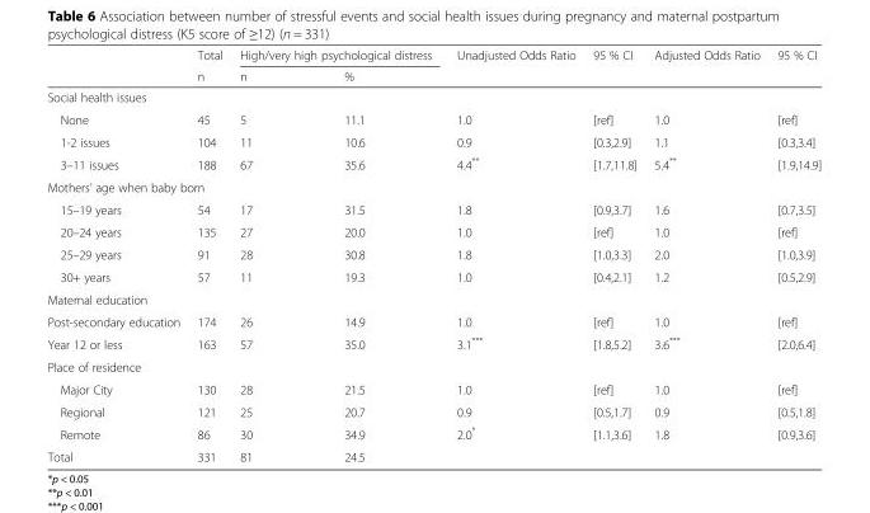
<table><thead><tr><td rowspan="2"></td><td rowspan="2">Total n</td><td colspan="2">High/very high psychological distress</td><td rowspan="2">Unadjusted Odds Ratio</td><td rowspan="2">95 % CI</td><td rowspan="2">Adjusted Odds Ratio</td><td rowspan="2">95 % CI</td></tr><tr><td>n</td><td>%</td></tr></thead><tbody><tr><td colspan="8">Social health issues</td></tr><tr><td>None</td><td>45</td><td>5</td><td>11.1</td><td>1.0</td><td>[ref]</td><td>1.0</td><td>[ref]</td></tr><tr><td>1-2 issues</td><td>104</td><td>11</td><td>10.6</td><td>0.9</td><td>[0.3,2.9]</td><td>1.1</td><td>[0.3,3.4]</td></tr><tr><td>3–11 issues</td><td>188</td><td>67</td><td>35.6</td><td>4.4**</td><td>[1.7,11.8]</td><td>5.4**</td><td>[1.9,14.9]</td></tr><tr><td colspan="8">Mothers’ age when baby born</td></tr><tr><td>15–19 years</td><td>54</td><td>17</td><td>31.5</td><td>1.8</td><td>[0.9,3.7]</td><td>1.6</td><td>[0.7,3.5]</td></tr><tr><td>20–24 years</td><td>135</td><td>27</td><td>20.0</td><td>1.0</td><td>[ref]</td><td>1.0</td><td>[ref]</td></tr><tr><td>25–29 years</td><td>91</td><td>28</td><td>30.8</td><td>1.8</td><td>[1.0,3.3]</td><td>2.0</td><td>[1.0,3.9]</td></tr><tr><td>30+ years</td><td>57</td><td>11</td><td>19.3</td><td>1.0</td><td>[0.4,2.1]</td><td>1.2</td><td>[0.5,2.9]</td></tr><tr><td colspan="8">Maternal education</td></tr><tr><td>Post-secondary education</td><td>174</td><td>26</td><td>14.9</td><td>1.0</td><td>[ref]</td><td>1.0</td><td>[ref]</td></tr><tr><td>Year 12 or less</td><td>163</td><td>57</td><td>35.0</td><td>3.1***</td><td>[1.8,5.2]</td><td>3.6***</td><td>[2.0,6.4]</td></tr><tr><td colspan="8">Place of residence</td></tr><tr><td>Major City</td><td>130</td><td>28</td><td>21.5</td><td>1.0</td><td>[ref]</td><td>1.0</td><td>[ref]</td></tr><tr><td>Regional</td><td>121</td><td>25</td><td>20.7</td><td>0.9</td><td>[0.5,1.7]</td><td>0.9</td><td>[0.5,1.8]</td></tr><tr><td>Remote</td><td>86</td><td>30</td><td>34.9</td><td>2.0*</td><td>[1.1,3.6]</td><td>1.8</td><td>[0.9,3.6]</td></tr><tr><td>Total</td><td>331</td><td>81</td><td>24.5</td><td></td><td></td><td></td><td></td></tr></tbody></table>